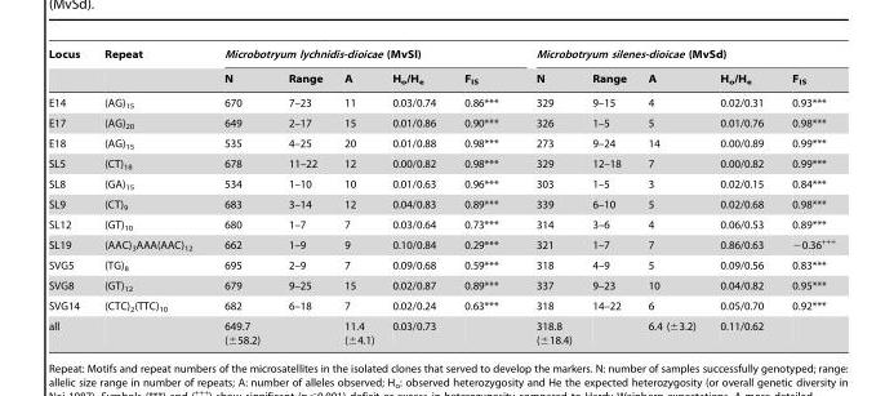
<table><thead><tr><td rowspan="2">Locus</td><td rowspan="2">Repeat</td><td colspan="5">Microbotryum lychnidis-dioicae (MvSl)</td><td colspan="5">Microbotryum silenes-dioicae (MvSd)</td></tr><tr><td>N</td><td>Range</td><td>A</td><td>H<sub>o</sub>/H<sub>e</sub></td><td>F<sub>IS</sub></td><td>N</td><td>Range</td><td>A</td><td>H<sub>o</sub>/H<sub>e</sub></td><td>F<sub>IS</sub></td></tr></thead><tbody><tr><td>E14</td><td>(AG)<sub>15</sub></td><td>670</td><td>7–23</td><td>11</td><td>0.03/0.74</td><td>0.86***</td><td>329</td><td>9–15</td><td>4</td><td>0.02/0.31</td><td>0.93***</td></tr><tr><td>E17</td><td>(AG)<sub>20</sub></td><td>649</td><td>2–17</td><td>15</td><td>0.01/0.86</td><td>0.90***</td><td>326</td><td>1–5</td><td>5</td><td>0.01/0.76</td><td>0.98***</td></tr><tr><td>E18</td><td>(AG)<sub>15</sub></td><td>535</td><td>4–25</td><td>20</td><td>0.01/0.88</td><td>0.98***</td><td>273</td><td>9–24</td><td>14</td><td>0.00/0.89</td><td>0.99***</td></tr><tr><td>SL5</td><td>(CT)<sub>18</sub></td><td>678</td><td>11–22</td><td>12</td><td>0.00/0.82</td><td>0.98***</td><td>329</td><td>12–18</td><td>7</td><td>0.00/0.82</td><td>0.99***</td></tr><tr><td>SL8</td><td>(GA)<sub>15</sub></td><td>534</td><td>1–10</td><td>10</td><td>0.01/0.63</td><td>0.96***</td><td>303</td><td>1–5</td><td>3</td><td>0.02/0.15</td><td>0.84***</td></tr><tr><td>SL9</td><td>(CT)<sub>9</sub></td><td>683</td><td>3–14</td><td>12</td><td>0.04/0.83</td><td>0.89***</td><td>339</td><td>6–10</td><td>5</td><td>0.02/0.68</td><td>0.98***</td></tr><tr><td>SL12</td><td>(GT)<sub>10</sub></td><td>680</td><td>1–7</td><td>7</td><td>0.03/0.64</td><td>0.73***</td><td>314</td><td>3–6</td><td>4</td><td>0.06/0.53</td><td>0.89***</td></tr><tr><td>SL19</td><td>(AAC)<sub>3</sub>AAA(AAC)<sub>12</sub></td><td>662</td><td>1–9</td><td>9</td><td>0.10/0.84</td><td>0.29***</td><td>321</td><td>1–7</td><td>7</td><td>0.86/0.63</td><td>−0.36<sup>+++</sup></td></tr><tr><td>SVG5</td><td>(TG)<sub>8</sub></td><td>695</td><td>2–9</td><td>7</td><td>0.09/0.68</td><td>0.59***</td><td>318</td><td>4–9</td><td>5</td><td>0.09/0.56</td><td>0.83***</td></tr><tr><td>SVG8</td><td>(GT)<sub>12</sub></td><td>679</td><td>9–25</td><td>15</td><td>0.02/0.87</td><td>0.89***</td><td>337</td><td>9–23</td><td>10</td><td>0.04/0.82</td><td>0.95***</td></tr><tr><td>SVG14</td><td>(CTC)<sub>2</sub>(TTC)<sub>10</sub></td><td>682</td><td>6–18</td><td>7</td><td>0.02/0.24</td><td>0.63***</td><td>318</td><td>14–22</td><td>6</td><td>0.05/0.70</td><td>0.92***</td></tr><tr><td>all</td><td></td><td>649.7 (±58.2)</td><td></td><td>11.4 (±4.1)</td><td>0.03/0.73</td><td></td><td>318.8 (±18.4)</td><td></td><td>6.4 (±3.2)</td><td>0.11/0.62</td><td></td></tr></tbody></table>